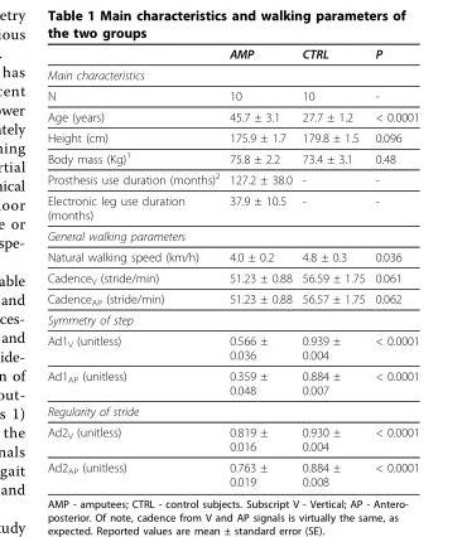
<table><thead><tr><td></td><td>AMP</td><td>CTRL</td><td>P</td></tr></thead><tbody><tr><td colspan="4">Main characteristics</td></tr><tr><td>N</td><td>10</td><td>10</td><td>-</td></tr><tr><td>Age (years)</td><td>45.7 ± 3.1</td><td>27.7 ± 1.2</td><td>&lt; 0.0001</td></tr><tr><td>Height (cm)</td><td>175.9 ± 1.7</td><td>179.8 ± 1.5</td><td>0.096</td></tr><tr><td>Body mass (Kg)<sup>1</sup></td><td>75.8 ± 2.2</td><td>73.4 ± 3.1</td><td>0.48</td></tr><tr><td>Prosthesis use duration (months)<sup>2</sup></td><td>127.2 ± 38.0</td><td>-</td><td>-</td></tr><tr><td>Electronic leg use duration (months)</td><td>37.9 ± 10.5</td><td>-</td><td>-</td></tr><tr><td colspan="4">General walking parameters</td></tr><tr><td>Natural walking speed (km/h)</td><td>4.0 ± 0.2</td><td>4.8 ± 0.3</td><td>0.036</td></tr><tr><td>Cadence<sub>V</sub> (stride/min)</td><td>51.23 ± 0.88</td><td>56.59 ± 1.75</td><td>0.061</td></tr><tr><td>Cadence<sub>AP</sub> (stride/min)</td><td>51.23 ± 0.88</td><td>56.57 ± 1.75</td><td>0.062</td></tr><tr><td colspan="4">Symmetry of step</td></tr><tr><td>Ad1<sub>V</sub> (unitless)</td><td>0.566 ± 0.036</td><td>0.939 ± 0.004</td><td>&lt; 0.0001</td></tr><tr><td>Ad1<sub>AP</sub> (unitless)</td><td>0.359 ± 0.048</td><td>0.884 ± 0.007</td><td>&lt; 0.0001</td></tr><tr><td colspan="4">Regularity of stride</td></tr><tr><td>Ad2<sub>V</sub> (unitless)</td><td>0.819 ± 0.016</td><td>0.930 ± 0.004</td><td>&lt; 0.0001</td></tr><tr><td>Ad2<sub>AP</sub> (unitless)</td><td>0.763 ± 0.019</td><td>0.884 ± 0.008</td><td>&lt; 0.0001</td></tr></tbody></table>